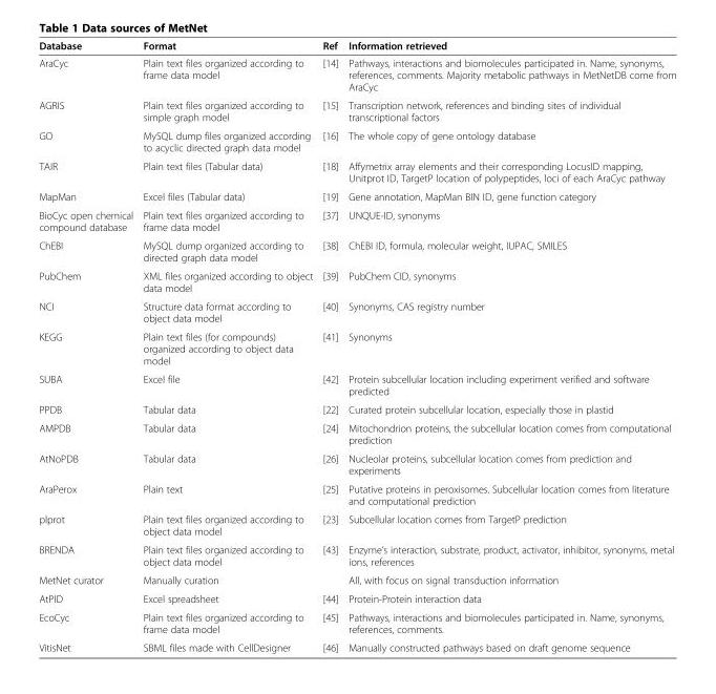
<table><thead><tr><td>Database</td><td>Format</td><td>Ref</td><td>Information retrieved</td></tr></thead><tbody><tr><td>AraCyc</td><td>Plain text files organized according to frame data model</td><td>[14]</td><td>Pathways, interactions and biomolecules participated in. Name, synonyms, references, comments. Majority metabolic pathways in MetNetDB come from AraCyc</td></tr><tr><td>AGRIS</td><td>Plain text files organized according to simple graph model</td><td>[15]</td><td>Transcription network, references and binding sites of individual transcriptional factors</td></tr><tr><td>GO</td><td>MySQL dump files organized according to acyclic directed graph data model</td><td>[16]</td><td>The whole copy of gene ontology database</td></tr><tr><td>TAIR</td><td>Plain text files (Tabular data)</td><td>[18]</td><td>Affymetrix array elements and their corresponding LocusID mapping, Unitprot ID, TargetP location of polypeptides, loci of each AraCyc pathway</td></tr><tr><td>MapMan</td><td>Excel files (Tabular data)</td><td>[19]</td><td>Gene annotation, MapMan BIN ID, gene function category</td></tr><tr><td>BioCyc open chemical compound database</td><td>Plain text files organized according to frame data model</td><td>[37]</td><td>UNQUE-ID, synonyms</td></tr><tr><td>ChEBI</td><td>MySQL dump organized according to directed graph data model</td><td>[38]</td><td>ChEBI ID, formula, molecular weight, IUPAC, SMILES</td></tr><tr><td>PubChem</td><td>XML files organized according to object data model</td><td>[39]</td><td>PubChem CID, synonyms</td></tr><tr><td>NCI</td><td>Structure data format according to object data model</td><td>[40]</td><td>Synonyms, CAS registry number</td></tr><tr><td>KEGG</td><td>Plain text files (for compounds) organized according to object data model</td><td>[41]</td><td>Synonyms</td></tr><tr><td>SUBA</td><td>Excel file</td><td>[42]</td><td>Protein subcellular location including experiment verified and software predicted</td></tr><tr><td>PPDB</td><td>Tabular data</td><td>[22]</td><td>Curated protein subcellular location, especially those in plastid</td></tr><tr><td>AMPDB</td><td>Tabular data</td><td>[24]</td><td>Mitochondrion proteins, the subcellular location comes from computational prediction</td></tr><tr><td>AtNoPDB</td><td>Tabular data</td><td>[26]</td><td>Nucleolar proteins, subcellular location comes from prediction and experiments</td></tr><tr><td>AraPerox</td><td>Plain text</td><td>[25]</td><td>Putative proteins in peroxisomes. Subcellular location comes from literature and computational prediction</td></tr><tr><td>plprot</td><td>Plain text files organized according to object data model</td><td>[23]</td><td>Subcellular location comes from TargetP prediction</td></tr><tr><td>BRENDA</td><td>Plain text files organized according to object data model</td><td>[43]</td><td>Enzyme’s interaction, substrate, product, activator, inhibitor, synonyms, metal ions, references</td></tr><tr><td>MetNet curator</td><td>Manually curation</td><td></td><td>All, with focus on signal transduction information</td></tr><tr><td>AtPID</td><td>Excel spreadsheet</td><td>[44]</td><td>Protein-Protein interaction data</td></tr><tr><td>EcoCyc</td><td>Plain text files organized according to frame data model</td><td>[45]</td><td>Pathways, interactions and biomolecules participated in. Name, synonyms, references, comments.</td></tr><tr><td>VitisNet</td><td>SBML files made with CellDesigner</td><td>[46]</td><td>Manually constructed pathways based on draft genome sequence</td></tr></tbody></table>